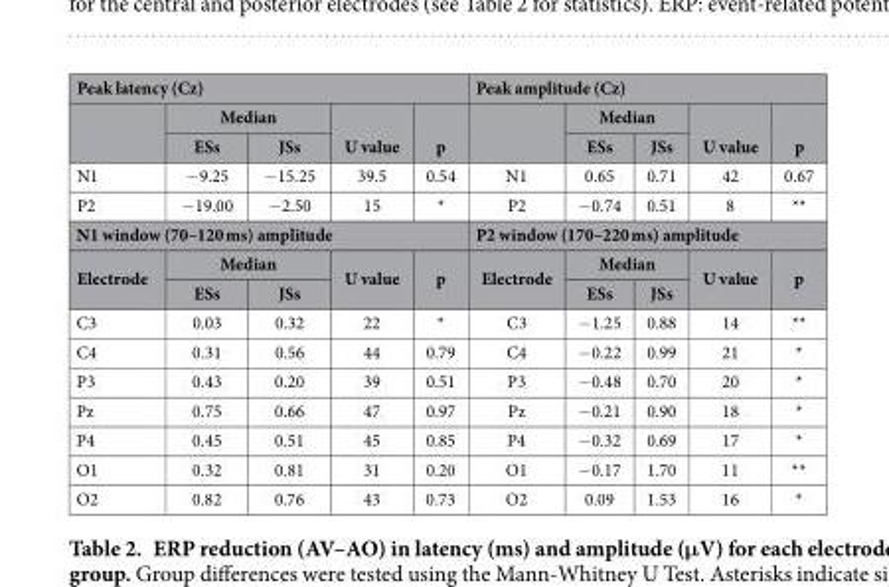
<table><thead><tr><td colspan="5">Peak latency (Cz)</td><td colspan="5">Peak amplitude (Cz)</td></tr><tr><td rowspan="2"></td><td colspan="2">Median</td><td rowspan="2">U value</td><td rowspan="2">p</td><td rowspan="2"></td><td colspan="2">Median</td><td rowspan="2">U value</td><td rowspan="2">p</td></tr><tr><td>ESs</td><td>JSs</td><td>ESs</td><td>JSs</td></tr></thead><tbody><tr><td>N1</td><td>− 9.25</td><td>− 15.25</td><td>39.5</td><td>0.54</td><td>N1</td><td>0.65</td><td>0.71</td><td>42</td><td>0.67</td></tr><tr><td>P2</td><td>− 19.00</td><td>− 2.50</td><td>15</td><td>*</td><td>P2</td><td>− 0.74</td><td>0.51</td><td>8</td><td>**</td></tr><tr><td colspan="5">N1 window (70–120 ms) amplitude</td><td colspan="5">P2 window (170–220 ms) amplitude</td></tr><tr><td rowspan="2">Electrode</td><td colspan="2">Median</td><td rowspan="2">U value</td><td rowspan="2">p</td><td rowspan="2">Electrode</td><td colspan="2">Median</td><td rowspan="2">U value</td><td rowspan="2">p</td></tr><tr><td>ESs</td><td>JSs</td><td>ESs</td><td>JSs</td></tr><tr><td>C3</td><td>0.03</td><td>0.32</td><td>22</td><td>*</td><td>C3</td><td>− 1.25</td><td>0.88</td><td>14</td><td>**</td></tr><tr><td>C4</td><td>0.31</td><td>0.56</td><td>44</td><td>0.79</td><td>C4</td><td>− 0.22</td><td>0.99</td><td>21</td><td>*</td></tr><tr><td>P3</td><td>0.43</td><td>0.20</td><td>39</td><td>0.51</td><td>P3</td><td>− 0.48</td><td>0.70</td><td>20</td><td>*</td></tr><tr><td>Pz</td><td>0.75</td><td>0.66</td><td>47</td><td>0.97</td><td>Pz</td><td>− 0.21</td><td>0.90</td><td>18</td><td>*</td></tr><tr><td>P4</td><td>0.45</td><td>0.51</td><td>45</td><td>0.85</td><td>P4</td><td>− 0.32</td><td>0.69</td><td>17</td><td>*</td></tr><tr><td>O1</td><td>0.32</td><td>0.81</td><td>31</td><td>0.20</td><td>O1</td><td>− 0.17</td><td>1.70</td><td>11</td><td>**</td></tr><tr><td>O2</td><td>0.82</td><td>0.76</td><td>43</td><td>0.73</td><td>O2</td><td>0.09</td><td>1.53</td><td>16</td><td>*</td></tr></tbody></table>